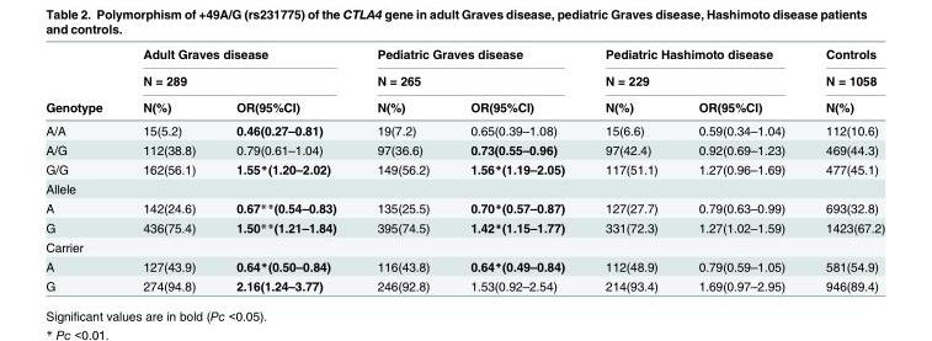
<table><thead><tr><td rowspan="3">Genotype</td><td rowspan="2" colspan="2">Adult Graves disease N = 289</td><td rowspan="2" colspan="2">Pediatric Graves disease N = 265</td><td rowspan="2" colspan="2">Pediatric Hashimoto disease N = 229</td><td rowspan="3">Controls N = 1058 N(%)</td></tr><tr></tr><tr><td>N(%)</td><td>OR(95%CI)</td><td>N(%)</td><td>OR(95%CI)</td><td>N(%)</td><td>OR(95%CI)</td></tr></thead><tbody><tr><td>A/A</td><td>15(5.2)</td><td>0.46(0.27–0.81)</td><td>19(7.2)</td><td>0.65(0.39–1.08)</td><td>15(6.6)</td><td>0.59(0.34–1.04)</td><td>112(10.6)</td></tr><tr><td>A/G</td><td>112(38.8)</td><td>0.79(0.61–1.04)</td><td>97(36.6)</td><td>0.73(0.55–0.96)</td><td>97(42.4)</td><td>0.92(0.69–1.23)</td><td>469(44.3)</td></tr><tr><td>G/G</td><td>162(56.1)</td><td>1.55*(1.20–2.02)</td><td>149(56.2)</td><td>1.56*(1.19–2.05)</td><td>117(51.1)</td><td>1.27(0.96–1.69)</td><td>477(45.1)</td></tr><tr><td colspan="8">Allele</td></tr><tr><td>A</td><td>142(24.6)</td><td>0.67**(0.54–0.83)</td><td>135(25.5)</td><td>0.70*(0.57–0.87)</td><td>127(27.7)</td><td>0.79(0.63–0.99)</td><td>693(32.8)</td></tr><tr><td>G</td><td>436(75.4)</td><td>1.50**(1.21–1.84)</td><td>395(74.5)</td><td>1.42*(1.15–1.77)</td><td>331(72.3)</td><td>1.27(1.02–1.59)</td><td>1423(67.2)</td></tr><tr><td colspan="8">Carrier</td></tr><tr><td>A</td><td>127(43.9)</td><td>0.64*(0.50–0.84)</td><td>116(43.8)</td><td>0.64*(0.49–0.84)</td><td>112(48.9)</td><td>0.79(0.59–1.05)</td><td>581(54.9)</td></tr><tr><td>G</td><td>274(94.8)</td><td>2.16(1.24–3.77)</td><td>246(92.8)</td><td>1.53(0.92–2.54)</td><td>214(93.4)</td><td>1.69(0.97–2.95)</td><td>946(89.4)</td></tr></tbody></table>